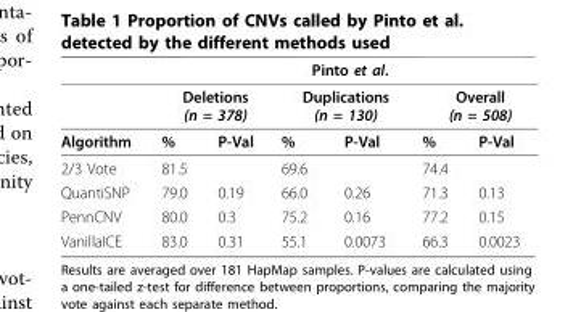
<table><thead><tr><td rowspan="3">Algorithm</td><td colspan="6">Pinto et al.</td></tr><tr><td colspan="2">Deletions (n = 378)</td><td colspan="2">Duplications (n = 130)</td><td colspan="2">Overall (n = 508)</td></tr><tr><td>%</td><td>P-Val</td><td>%</td><td>P-Val</td><td>%</td><td>P-Val</td></tr></thead><tbody><tr><td>2/3 Vote</td><td>81.5</td><td></td><td>69.6</td><td></td><td>74.4</td><td></td></tr><tr><td>QuantiSNP</td><td>79.0</td><td>0.19</td><td>66.0</td><td>0.26</td><td>71.3</td><td>0.13</td></tr><tr><td>PennCNV</td><td>80.0</td><td>0.3</td><td>75.2</td><td>0.16</td><td>77.2</td><td>0.15</td></tr><tr><td>VanillaICE</td><td>83.0</td><td>0.31</td><td>55.1</td><td>0.0073</td><td>66.3</td><td>0.0023</td></tr></tbody></table>